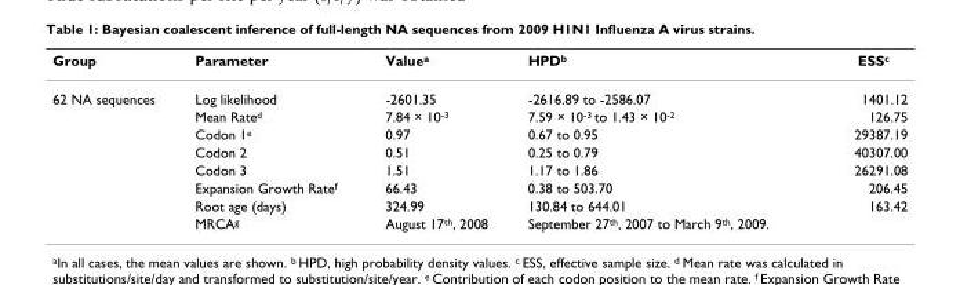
<table><thead><tr><td>Group</td><td>Parameter</td><td>Value<sup>a</sup></td><td>HPD<sup>b</sup></td><td>ESS<sup>c</sup></td></tr></thead><tbody><tr><td rowspan="8">62 NA sequences</td><td>Log likelihood</td><td>-2601.35</td><td>-2616.89 to -2586.07</td><td>1401.12</td></tr><tr><td>Mean Rate<sup>d</sup></td><td>7.84 × 10<sup>-3</sup></td><td>7.59 × 10<sup>-3</sup> to 1.43 × 10<sup>-2</sup></td><td>126.75</td></tr><tr><td>Codon 1<sup>e</sup></td><td>0.97</td><td>0.67 to 0.95</td><td>29387.19</td></tr><tr><td>Codon 2</td><td>0.51</td><td>0.25 to 0.79</td><td>40307.00</td></tr><tr><td>Codon 3</td><td>1.51</td><td>1.17 to 1.86</td><td>26291.08</td></tr><tr><td>Expansion Growth Rate<sup>f</sup></td><td>66.43</td><td>0.38 to 503.70</td><td>206.45</td></tr><tr><td>Root age (days)</td><td>324.99</td><td>130.84 to 644.01</td><td>163.42</td></tr><tr><td>MRCA<sup>g</sup></td><td>August 17<sup>th</sup>, 2008</td><td>September 27<sup>th</sup>, 2007 to March 9<sup>th</sup>, 2009.</td><td></td></tr></tbody></table>